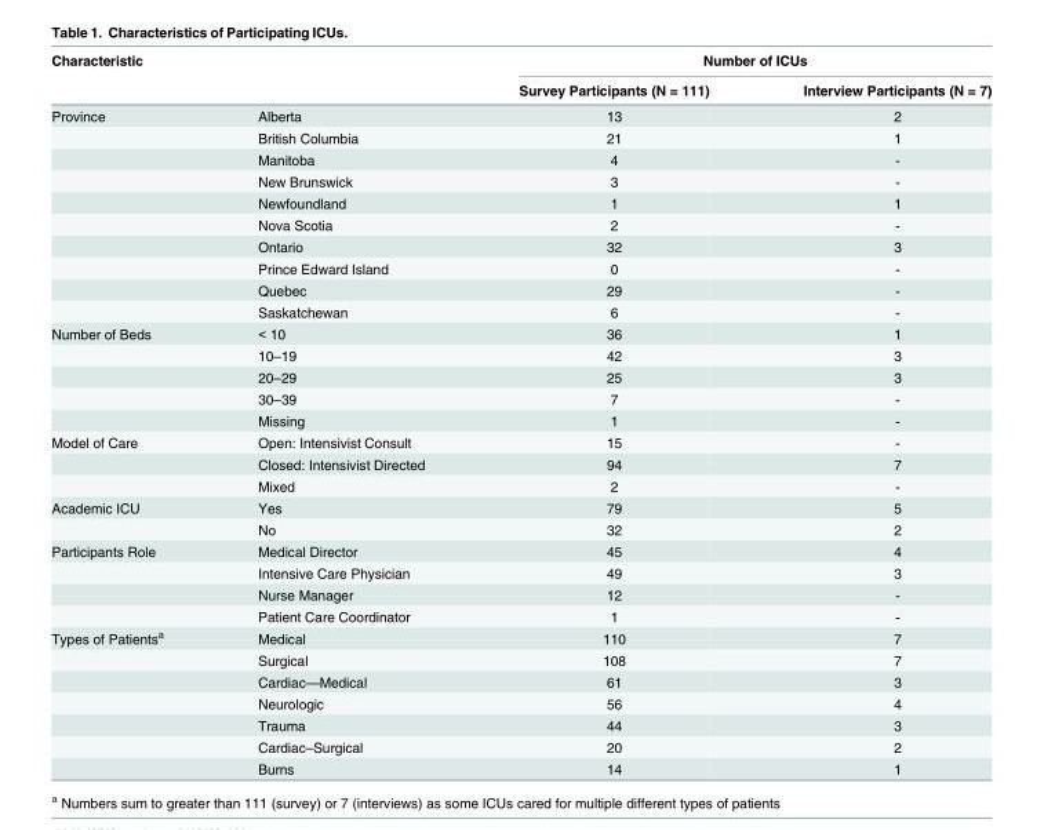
<table><thead><tr><td rowspan="2" colspan="2">Characteristic</td><td colspan="2">Number of ICUs</td></tr><tr><td rowspan="2">Survey Participants (N = 111) 13</td><td rowspan="2">Interview Participants (N = 7) 2</td></tr><tr><td>Province</td><td>Alberta</td></tr></thead><tbody><tr><td></td><td>British Columbia</td><td>21</td><td>1</td></tr><tr><td></td><td>Manitoba</td><td>4</td><td>-</td></tr><tr><td></td><td>New Brunswick</td><td>3</td><td>-</td></tr><tr><td></td><td>Newfoundland</td><td>1</td><td>1</td></tr><tr><td></td><td>Nova Scotia</td><td>2</td><td>-</td></tr><tr><td></td><td>Ontario</td><td>32</td><td>3</td></tr><tr><td></td><td>Prince Edward Island</td><td>0</td><td>-</td></tr><tr><td></td><td>Quebec</td><td>29</td><td>-</td></tr><tr><td></td><td>Saskatchewan</td><td>6</td><td>-</td></tr><tr><td rowspan="5">Number of Beds</td><td>&lt; 10</td><td>36</td><td>1</td></tr><tr><td>10–19</td><td>42</td><td>3</td></tr><tr><td>20–29</td><td>25</td><td>3</td></tr><tr><td>30–39</td><td>7</td><td>-</td></tr><tr><td>Missing</td><td>1</td><td>-</td></tr><tr><td rowspan="3">Model of Care</td><td>Open: Intensivist Consult</td><td>15</td><td>-</td></tr><tr><td>Closed: Intensivist Directed</td><td>94</td><td>7</td></tr><tr><td>Mixed</td><td>2</td><td>-</td></tr><tr><td rowspan="2">Academic ICU</td><td>Yes</td><td>79</td><td>5</td></tr><tr><td>No</td><td>32</td><td>2</td></tr><tr><td rowspan="4">Participants Role</td><td>Medical Director</td><td>45</td><td>4</td></tr><tr><td>Intensive Care Physician</td><td>49</td><td>3</td></tr><tr><td>Nurse Manager</td><td>12</td><td>-</td></tr><tr><td>Patient Care Coordinator</td><td>1</td><td>-</td></tr><tr><td rowspan="7">Types of Patients<sup>a</sup></td><td>Medical</td><td>110</td><td>7</td></tr><tr><td>Surgical</td><td>108</td><td>7</td></tr><tr><td>Cardiac—Medical</td><td>61</td><td>3</td></tr><tr><td>Neurologic</td><td>56</td><td>4</td></tr><tr><td>Trauma</td><td>44</td><td>3</td></tr><tr><td>Cardiac–Surgical</td><td>20</td><td>2</td></tr><tr><td>Burns</td><td>14</td><td>1</td></tr></tbody></table>